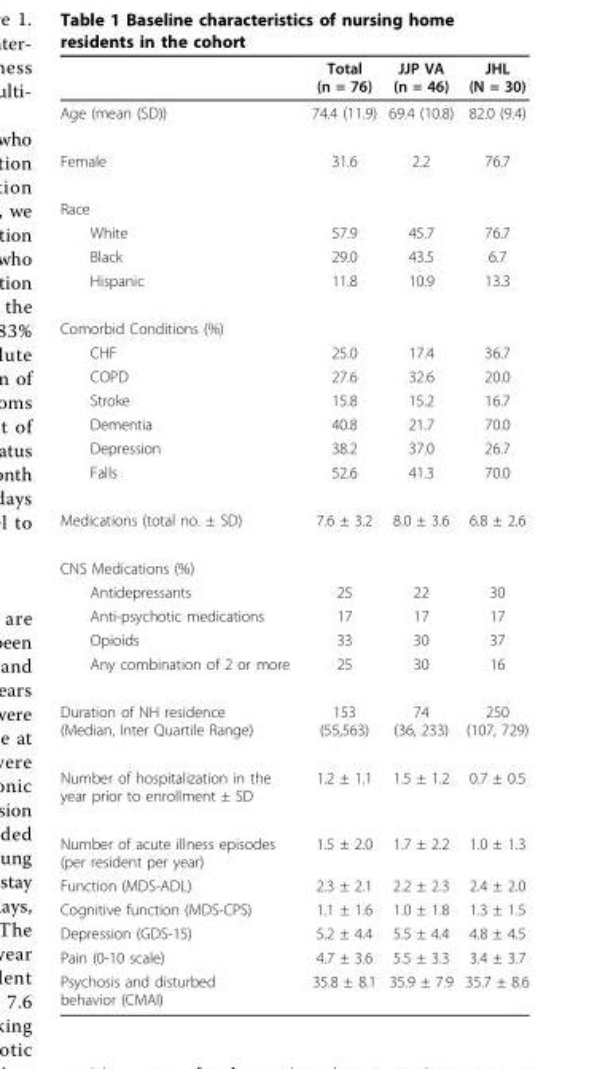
<table><thead><tr><td></td><td>Total (n = 76)</td><td>JJP VA (n = 46)</td><td>JHL (N = 30)</td></tr></thead><tbody><tr><td>Age (mean (SD))</td><td>74.4 (11.9)</td><td>69.4 (10.8)</td><td>82.0 (9.4)</td></tr><tr><td>Female</td><td>31.6</td><td>2.2</td><td>76.7</td></tr><tr><td colspan="4">Race</td></tr><tr><td>White</td><td>57.9</td><td>45.7</td><td>76.7</td></tr><tr><td>Black</td><td>29.0</td><td>43.5</td><td>6.7</td></tr><tr><td>Hispanic</td><td>11.8</td><td>10.9</td><td>13.3</td></tr><tr><td colspan="4">Comorbid Conditions (%)</td></tr><tr><td>CHF</td><td>25.0</td><td>17.4</td><td>36.7</td></tr><tr><td>COPD</td><td>27.6</td><td>32.6</td><td>20.0</td></tr><tr><td>Stroke</td><td>15.8</td><td>15.2</td><td>16.7</td></tr><tr><td>Dementia</td><td>40.8</td><td>21.7</td><td>70.0</td></tr><tr><td>Depression</td><td>38.2</td><td>37.0</td><td>26.7</td></tr><tr><td>Falls</td><td>52.6</td><td>41.3</td><td>70.0</td></tr><tr><td>Medications (total no. ± SD)</td><td>7.6 ± 3.2</td><td>8.0 ± 3.6</td><td>6.8 ± 2.6</td></tr><tr><td colspan="4">CNS Medications (%)</td></tr><tr><td>Antidepressants</td><td>25</td><td>22</td><td>30</td></tr><tr><td>Anti-psychotic medications</td><td>17</td><td>17</td><td>17</td></tr><tr><td>Opioids</td><td>33</td><td>30</td><td>37</td></tr><tr><td>Any combination of 2 or more</td><td>25</td><td>30</td><td>16</td></tr><tr><td>Duration of NH residence (Median, Inter Quartile Range)</td><td>153 (55,563)</td><td>74 (36, 233)</td><td>250 (107, 729)</td></tr><tr><td>Number of hospitalization in the year prior to enrollment ± SD</td><td>1.2 ± 1.1</td><td>1.5 ± 1.2</td><td>0.7 ± 0.5</td></tr><tr><td>Number of acute illness episodes (per resident per year)</td><td>1.5 ± 2.0</td><td>1.7 ± 2.2</td><td>1.0 ± 1.3</td></tr><tr><td>Function (MDS-ADL)</td><td>2.3 ± 2.1</td><td>2.2 ± 2.3</td><td>2.4 ± 2.0</td></tr><tr><td>Cognitive function (MDS-CPS)</td><td>1.1 ± 1.6</td><td>1.0 ± 1.8</td><td>1.3 ± 1.5</td></tr><tr><td>Depression (GDS-15)</td><td>5.2 ± 4.4</td><td>5.5 ± 4.4</td><td>4.8 ± 4.5</td></tr><tr><td>Pain (0-10 scale)</td><td>4.7 ± 3.6</td><td>5.5 ± 3.3</td><td>3.4 ± 3.7</td></tr><tr><td>Psychosis and disturbed behavior (CMAI)</td><td>35.8 ± 8.1</td><td>35.9 ± 7.9</td><td>35.7 ± 8.6</td></tr></tbody></table>